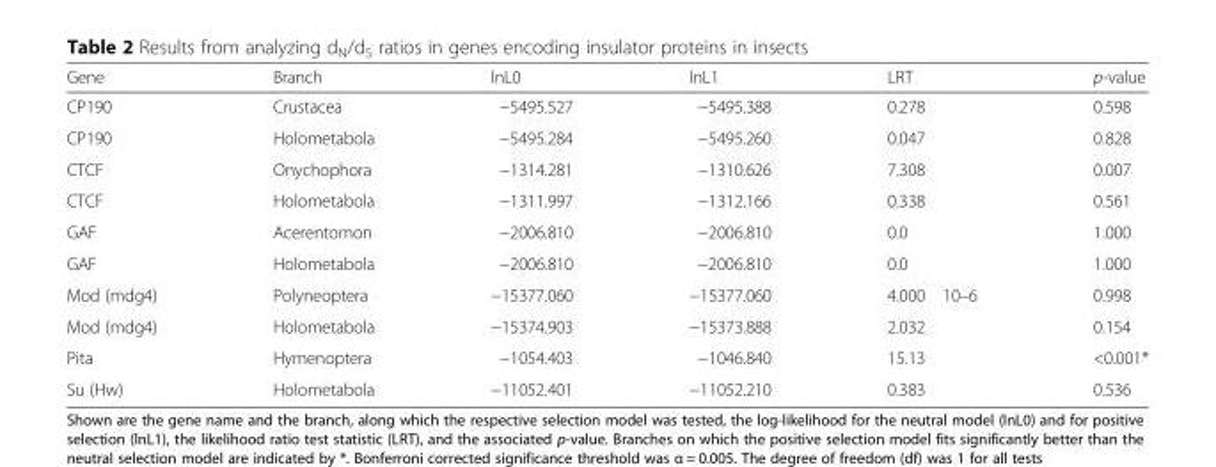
<table><thead><tr><td>Gene</td><td>Branch</td><td>lnL0</td><td>lnL1</td><td>LRT</td><td>p-value</td></tr></thead><tbody><tr><td>CP190</td><td>Crustacea</td><td>−5495.527</td><td>−5495.388</td><td>0.278</td><td>0.598</td></tr><tr><td>CP190</td><td>Holometabola</td><td>−5495.284</td><td>−5495.260</td><td>0.047</td><td>0.828</td></tr><tr><td>CTCF</td><td>Onychophora</td><td>−1314.281</td><td>−1310.626</td><td>7.308</td><td>0.007</td></tr><tr><td>CTCF</td><td>Holometabola</td><td>−1311.997</td><td>−1312.166</td><td>0.338</td><td>0.561</td></tr><tr><td>GAF</td><td>Acerentomon</td><td>−2006.810</td><td>−2006.810</td><td>0.0</td><td>1.000</td></tr><tr><td>GAF</td><td>Holometabola</td><td>−2006.810</td><td>−2006.810</td><td>0.0</td><td>1.000</td></tr><tr><td>Mod (mdg4)</td><td>Polyneoptera</td><td>−15377.060</td><td>−15377.060</td><td>4.000 10–6</td><td>0.998</td></tr><tr><td>Mod (mdg4)</td><td>Holometabola</td><td>−15374.903</td><td>−15373.888</td><td>2.032</td><td>0.154</td></tr><tr><td>Pita</td><td>Hymenoptera</td><td>−1054.403</td><td>−1046.840</td><td>15.13</td><td>&lt;0.001*</td></tr><tr><td>Su (Hw)</td><td>Holometabola</td><td>−11052.401</td><td>−11052.210</td><td>0.383</td><td>0.536</td></tr></tbody></table>